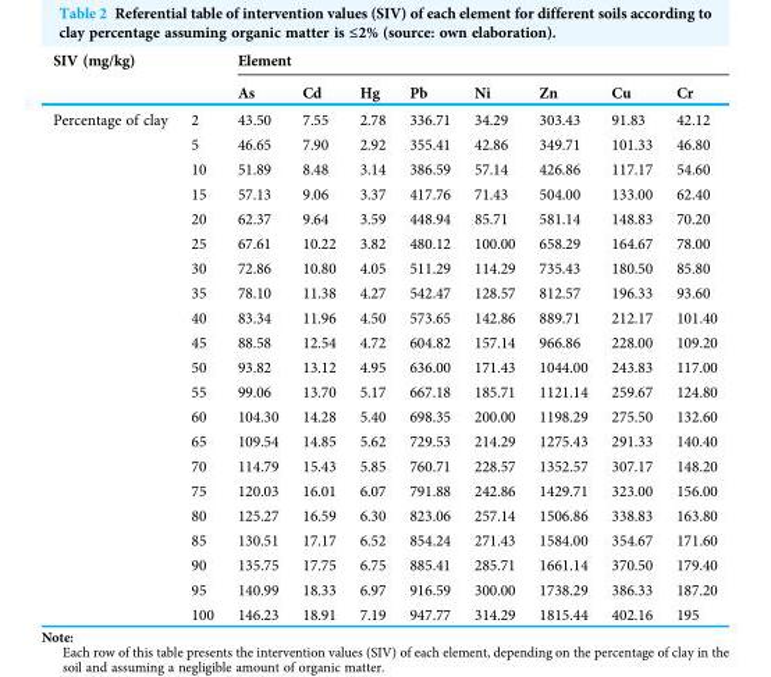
<table><thead><tr><td rowspan="2">SIV (mg/kg)</td><td rowspan="2"></td><td colspan="8">Element</td></tr><tr><td>As</td><td>Cd</td><td>Hg</td><td>Pb</td><td>Ni</td><td>Zn</td><td>Cu</td><td>Cr</td></tr></thead><tbody><tr><td rowspan="21">Percentage of clay</td><td>2</td><td>43.50</td><td>7.55</td><td>2.78</td><td>336.71</td><td>34.29</td><td>303.43</td><td>91.83</td><td>42.12</td></tr><tr><td>5</td><td>46.65</td><td>7.90</td><td>2.92</td><td>355.41</td><td>42.86</td><td>349.71</td><td>101.33</td><td>46.80</td></tr><tr><td>10</td><td>51.89</td><td>8.48</td><td>3.14</td><td>386.59</td><td>57.14</td><td>426.86</td><td>117.17</td><td>54.60</td></tr><tr><td>15</td><td>57.13</td><td>9.06</td><td>3.37</td><td>417.76</td><td>71.43</td><td>504.00</td><td>133.00</td><td>62.40</td></tr><tr><td>20</td><td>62.37</td><td>9.64</td><td>3.59</td><td>448.94</td><td>85.71</td><td>581.14</td><td>148.83</td><td>70.20</td></tr><tr><td>25</td><td>67.61</td><td>10.22</td><td>3.82</td><td>480.12</td><td>100.00</td><td>658.29</td><td>164.67</td><td>78.00</td></tr><tr><td>30</td><td>72.86</td><td>10.80</td><td>4.05</td><td>511.29</td><td>114.29</td><td>735.43</td><td>180.50</td><td>85.80</td></tr><tr><td>35</td><td>78.10</td><td>11.38</td><td>4.27</td><td>542.47</td><td>128.57</td><td>812.57</td><td>196.33</td><td>93.60</td></tr><tr><td>40</td><td>83.34</td><td>11.96</td><td>4.50</td><td>573.65</td><td>142.86</td><td>889.71</td><td>212.17</td><td>101.40</td></tr><tr><td>45</td><td>88.58</td><td>12.54</td><td>4.72</td><td>604.82</td><td>157.14</td><td>966.86</td><td>228.00</td><td>109.20</td></tr><tr><td>50</td><td>93.82</td><td>13.12</td><td>4.95</td><td>636.00</td><td>171.43</td><td>1044.00</td><td>243.83</td><td>117.00</td></tr><tr><td>55</td><td>99.06</td><td>13.70</td><td>5.17</td><td>667.18</td><td>185.71</td><td>1121.14</td><td>259.67</td><td>124.80</td></tr><tr><td>60</td><td>104.30</td><td>14.28</td><td>5.40</td><td>698.35</td><td>200.00</td><td>1198.29</td><td>275.50</td><td>132.60</td></tr><tr><td>65</td><td>109.54</td><td>14.85</td><td>5.62</td><td>729.53</td><td>214.29</td><td>1275.43</td><td>291.33</td><td>140.40</td></tr><tr><td>70</td><td>114.79</td><td>15.43</td><td>5.85</td><td>760.71</td><td>228.57</td><td>1352.57</td><td>307.17</td><td>148.20</td></tr><tr><td>75</td><td>120.03</td><td>16.01</td><td>6.07</td><td>791.88</td><td>242.86</td><td>1429.71</td><td>323.00</td><td>156.00</td></tr><tr><td>80</td><td>125.27</td><td>16.59</td><td>6.30</td><td>823.06</td><td>257.14</td><td>1506.86</td><td>338.83</td><td>163.80</td></tr><tr><td>85</td><td>130.51</td><td>17.17</td><td>6.52</td><td>854.24</td><td>271.43</td><td>1584.00</td><td>354.67</td><td>171.60</td></tr><tr><td>90</td><td>135.75</td><td>17.75</td><td>6.75</td><td>885.41</td><td>285.71</td><td>1661.14</td><td>370.50</td><td>179.40</td></tr><tr><td>95</td><td>140.99</td><td>18.33</td><td>6.97</td><td>916.59</td><td>300.00</td><td>1738.29</td><td>386.33</td><td>187.20</td></tr><tr><td>100</td><td>146.23</td><td>18.91</td><td>7.19</td><td>947.77</td><td>314.29</td><td>1815.44</td><td>402.16</td><td>195</td></tr></tbody></table>